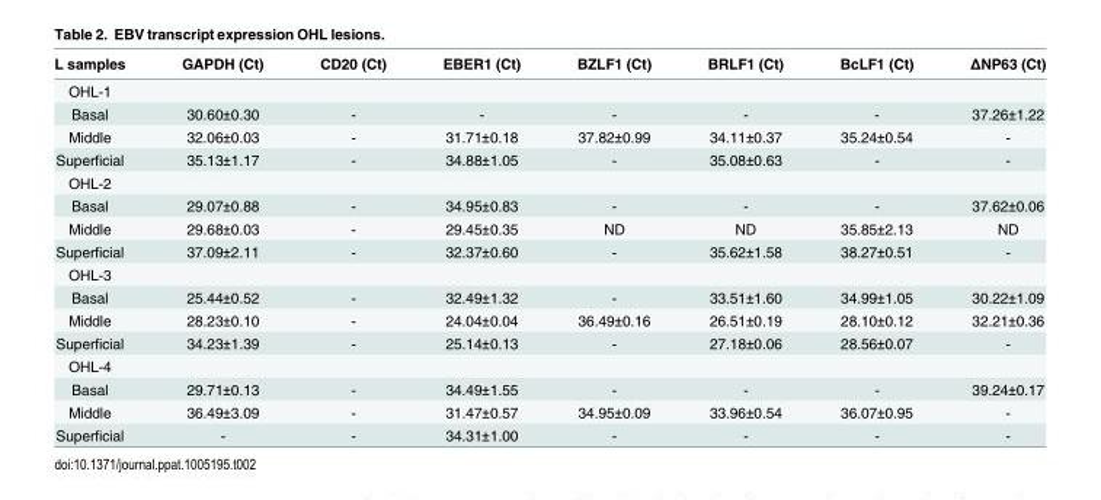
<table><thead><tr><td>L samples</td><td>GAPDH (Ct)</td><td>CD20 (Ct)</td><td>EBER1 (Ct)</td><td>BZLF1 (Ct)</td><td>BRLF1 (Ct)</td><td>BcLF1 (Ct)</td><td>ΔNP63 (Ct)</td></tr></thead><tbody><tr><td colspan="8">OHL-1</td></tr><tr><td>Basal</td><td>30.60±0.30</td><td>-</td><td>-</td><td>-</td><td>-</td><td>-</td><td>37.26±1.22</td></tr><tr><td>Middle</td><td>32.06±0.03</td><td>-</td><td>31.71±0.18</td><td>37.82±0.99</td><td>34.11±0.37</td><td>35.24±0.54</td><td>-</td></tr><tr><td>Superficial</td><td>35.13±1.17</td><td>-</td><td>34.88±1.05</td><td>-</td><td>35.08±0.63</td><td>-</td><td>-</td></tr><tr><td colspan="8">OHL-2</td></tr><tr><td>Basal</td><td>29.07±0.88</td><td>-</td><td>34.95±0.83</td><td>-</td><td>-</td><td>-</td><td>37.62±0.06</td></tr><tr><td>Middle</td><td>29.68±0.03</td><td>-</td><td>29.45±0.35</td><td>ND</td><td>ND</td><td>35.85±2.13</td><td>ND</td></tr><tr><td>Superficial</td><td>37.09±2.11</td><td>-</td><td>32.37±0.60</td><td>-</td><td>35.62±1.58</td><td>38.27±0.51</td><td>-</td></tr><tr><td colspan="8">OHL-3</td></tr><tr><td>Basal</td><td>25.44±0.52</td><td>-</td><td>32.49±1.32</td><td>-</td><td>33.51±1.60</td><td>34.99±1.05</td><td>30.22±1.09</td></tr><tr><td>Middle</td><td>28.23±0.10</td><td>-</td><td>24.04±0.04</td><td>36.49±0.16</td><td>26.51±0.19</td><td>28.10±0.12</td><td>32.21±0.36</td></tr><tr><td>Superficial</td><td>34.23±1.39</td><td>-</td><td>25.14±0.13</td><td>-</td><td>27.18±0.06</td><td>28.56±0.07</td><td>-</td></tr><tr><td colspan="8">OHL-4</td></tr><tr><td>Basal</td><td>29.71±0.13</td><td>-</td><td>34.49±1.55</td><td>-</td><td>-</td><td>-</td><td>39.24±0.17</td></tr><tr><td>Middle</td><td>36.49±3.09</td><td>-</td><td>31.47±0.57</td><td>34.95±0.09</td><td>33.96±0.54</td><td>36.07±0.95</td><td>-</td></tr><tr><td>Superficial</td><td>-</td><td>-</td><td>34.31±1.00</td><td>-</td><td>-</td><td>-</td><td>-</td></tr></tbody></table>